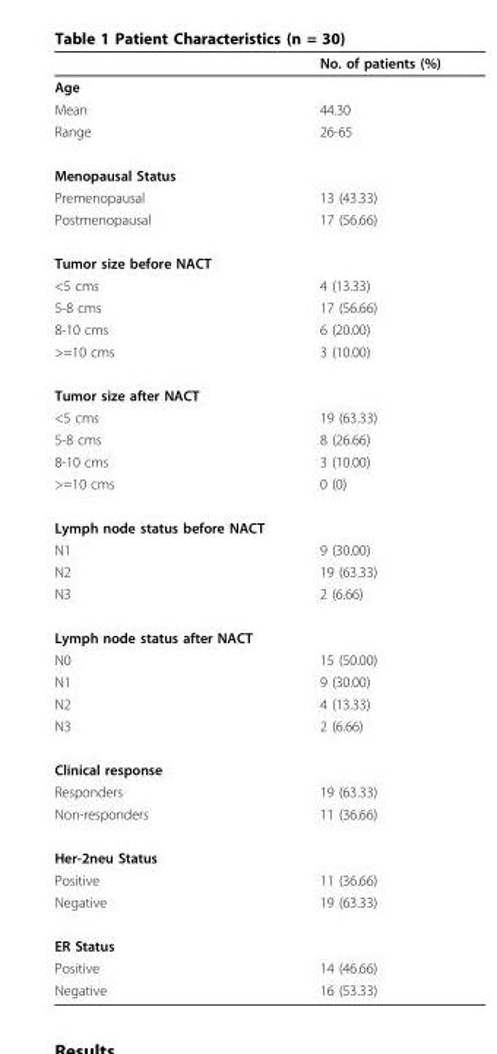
<table><thead><tr><td></td><td>No. of patients (%)</td></tr></thead><tbody><tr><td colspan="2">Age</td></tr><tr><td>Mean</td><td>44.30</td></tr><tr><td>Range</td><td>26-65</td></tr><tr><td colspan="2">Menopausal Status</td></tr><tr><td>Premenopausal</td><td>13 (43.33)</td></tr><tr><td>Postmenopausal</td><td>17 (56.66)</td></tr><tr><td colspan="2">Tumor size before NACT</td></tr><tr><td>&lt;5 cms</td><td>4 (13.33)</td></tr><tr><td>5-8 cms</td><td>17 (56.66)</td></tr><tr><td>8-10 cms</td><td>6 (20.00)</td></tr><tr><td>&gt;=10 cms</td><td>3 (10.00)</td></tr><tr><td colspan="2">Tumor size after NACT</td></tr><tr><td>&lt;5 cms</td><td>19 (63.33)</td></tr><tr><td>5-8 cms</td><td>8 (26.66)</td></tr><tr><td>8-10 cms</td><td>3 (10.00)</td></tr><tr><td>&gt;=10 cms</td><td>0 (0)</td></tr><tr><td colspan="2">Lymph node status before NACT</td></tr><tr><td>N1</td><td>9 (30.00)</td></tr><tr><td>N2</td><td>19 (63.33)</td></tr><tr><td>N3</td><td>2 (6.66)</td></tr><tr><td colspan="2">Lymph node status after NACT</td></tr><tr><td>N0</td><td>15 (50.00)</td></tr><tr><td>N1</td><td>9 (30.00)</td></tr><tr><td>N2</td><td>4 (13.33)</td></tr><tr><td>N3</td><td>2 (6.66)</td></tr><tr><td colspan="2">Clinical response</td></tr><tr><td>Responders</td><td>19 (63.33)</td></tr><tr><td>Non-responders</td><td>11 (36.66)</td></tr><tr><td colspan="2">Her-2neu Status</td></tr><tr><td>Positive</td><td>11 (36.66)</td></tr><tr><td>Negative</td><td>19 (63.33)</td></tr><tr><td colspan="2">ER Status</td></tr><tr><td>Positive</td><td>14 (46.66)</td></tr><tr><td>Negative</td><td>16 (53.33)</td></tr></tbody></table>